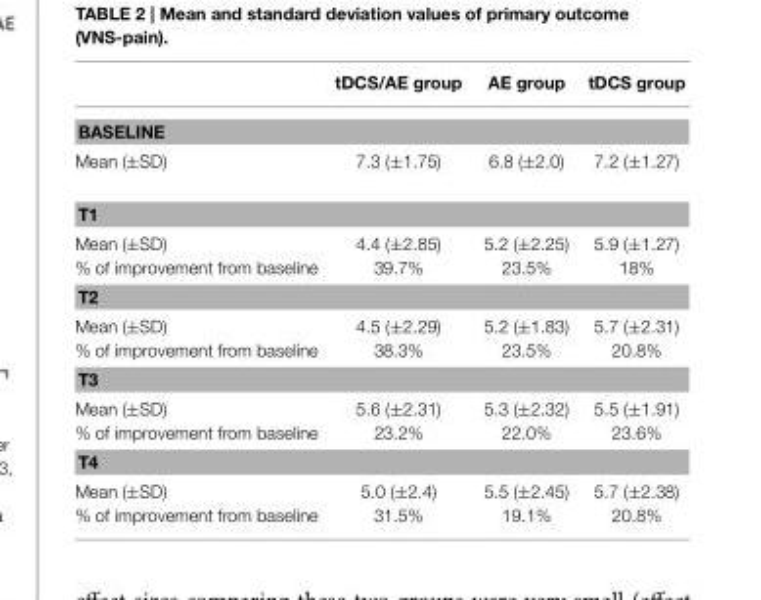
<table><thead><tr><td></td><td>tDCS/AE group</td><td>AE group</td><td>tDCS group</td></tr></thead><tbody><tr><td colspan="4">BASELINE</td></tr><tr><td>Mean (±SD)</td><td>7.3 (±1.75)</td><td>6.8 (±2.0)</td><td>7.2 (±1.27)</td></tr><tr><td colspan="4">T1</td></tr><tr><td>Mean (±SD) % of improvement from baseline</td><td>4.4 (±2.85) 39.7%</td><td>5.2 (±2.25) 23.5%</td><td>5.9 (±1.27) 18%</td></tr><tr><td colspan="4">T2</td></tr><tr><td>Mean (±SD) % of improvement from baseline</td><td>4.5 (±2.29) 38.3%</td><td>5.2 (±1.83) 23.5%</td><td>5.7 (±2.31) 20.8%</td></tr><tr><td colspan="4">T3</td></tr><tr><td>Mean (±SD) % of improvement from baseline</td><td>5.6 (±2.31) 23.2%</td><td>5.3 (±2.32) 22.0%</td><td>5.5 (±1.91) 23.6%</td></tr><tr><td colspan="4">T4</td></tr><tr><td>Mean (±SD) % of improvement from baseline</td><td>5.0 (±2.4) 31.5%</td><td>5.5 (±2.45) 19.1%</td><td>5.7 (±2.38) 20.8%</td></tr></tbody></table>